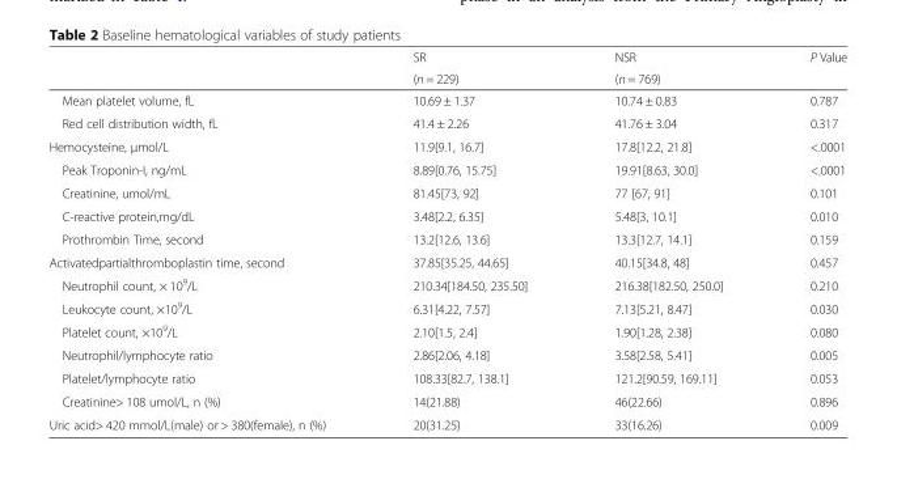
<table><thead><tr><td rowspan="2"></td><td rowspan="2">SR (n = 229)</td><td rowspan="2">NSR (n = 769)</td><td rowspan="2">P Value</td></tr><tr></tr></thead><tbody><tr><td>Mean platelet volume, fL</td><td>10.69 ± 1.37</td><td>10.74 ± 0.83</td><td>0.787</td></tr><tr><td>Red cell distribution width, fL</td><td>41.4 ± 2.26</td><td>41.76 ± 3.04</td><td>0.317</td></tr><tr><td>Hemocysteine, μmol/L</td><td>11.9[9.1, 16.7]</td><td>17.8[12.2, 21.8]</td><td>&lt;.0001</td></tr><tr><td>Peak Troponin-I, ng/mL</td><td>8.89[0.76, 15.75]</td><td>19.91[8.63, 30.0]</td><td>&lt;.0001</td></tr><tr><td>Creatinine, umol/mL</td><td>81.45[73, 92]</td><td>77 [67, 91]</td><td>0.101</td></tr><tr><td>C-reactive protein,mg/dL</td><td>3.48[2.2, 6.35]</td><td>5.48[3, 10.1]</td><td>0.010</td></tr><tr><td>Prothrombin Time, second</td><td>13.2[12.6, 13.6]</td><td>13.3[12.7, 14.1]</td><td>0.159</td></tr><tr><td>Activatedpartialthromboplastin time, second</td><td>37.85[35.25, 44.65]</td><td>40.15[34.8, 48]</td><td>0.457</td></tr><tr><td>Neutrophil count, × 10<sup>9</sup>/L</td><td>210.34[184.50, 235.50]</td><td>216.38[182.50, 250.0]</td><td>0.210</td></tr><tr><td>Leukocyte count, ×10<sup>9</sup>/L</td><td>6.31[4.22, 7.57]</td><td>7.13[5.21, 8.47]</td><td>0.030</td></tr><tr><td>Platelet count, ×10<sup>9</sup>/L</td><td>2.10[1.5, 2.4]</td><td>1.90[1.28, 2.38]</td><td>0.080</td></tr><tr><td>Neutrophil/lymphocyte ratio</td><td>2.86[2.06, 4.18]</td><td>3.58[2.58, 5.41]</td><td>0.005</td></tr><tr><td>Platelet/lymphocyte ratio</td><td>108.33[82.7, 138.1]</td><td>121.2[90.59, 169.11]</td><td>0.053</td></tr><tr><td>Creatinine&gt; 108 umol/L, n (%)</td><td>14(21.88)</td><td>46(22.66)</td><td>0.896</td></tr><tr><td>Uric acid&gt; 420 mmol/L(male) or &gt; 380(female), n (%)</td><td>20(31.25)</td><td>33(16.26)</td><td>0.009</td></tr></tbody></table>